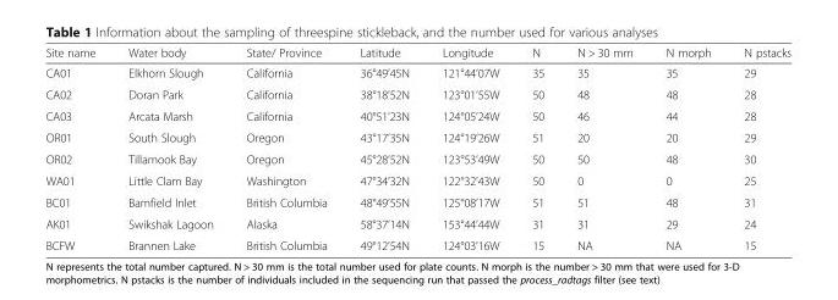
<table><thead><tr><td>Site name</td><td>Water body</td><td>State/ Province</td><td>Latitude</td><td>Longitude</td><td>N</td><td>N &gt; 30 mm</td><td>N morph</td><td>N pstacks</td></tr></thead><tbody><tr><td>CA01</td><td>Elkhorn Slough</td><td>California</td><td>36°49’45N</td><td>121°44’07W</td><td>35</td><td>35</td><td>35</td><td>29</td></tr><tr><td>CA02</td><td>Doran Park</td><td>California</td><td>38°18’52N</td><td>123°01’55W</td><td>50</td><td>48</td><td>48</td><td>28</td></tr><tr><td>CA03</td><td>Arcata Marsh</td><td>California</td><td>40°51’23N</td><td>124°05’24W</td><td>50</td><td>46</td><td>44</td><td>28</td></tr><tr><td>OR01</td><td>South Slough</td><td>Oregon</td><td>43°17’35N</td><td>124°19’26W</td><td>51</td><td>20</td><td>20</td><td>29</td></tr><tr><td>OR02</td><td>Tillamook Bay</td><td>Oregon</td><td>45°28’52N</td><td>123°53’49W</td><td>50</td><td>50</td><td>48</td><td>30</td></tr><tr><td>WA01</td><td>Little Clam Bay</td><td>Washington</td><td>47°34’32N</td><td>122°32’43W</td><td>50</td><td>0</td><td>0</td><td>25</td></tr><tr><td>BC01</td><td>Bamfield Inlet</td><td>British Columbia</td><td>48°49’55N</td><td>125°08’17W</td><td>51</td><td>51</td><td>48</td><td>31</td></tr><tr><td>AK01</td><td>Swikshak Lagoon</td><td>Alaska</td><td>58°37’14N</td><td>153°44’44W</td><td>31</td><td>31</td><td>29</td><td>24</td></tr><tr><td>BCFW</td><td>Brannen Lake</td><td>British Columbia</td><td>49°12’54N</td><td>124°03’16W</td><td>15</td><td>NA</td><td>NA</td><td>15</td></tr></tbody></table>